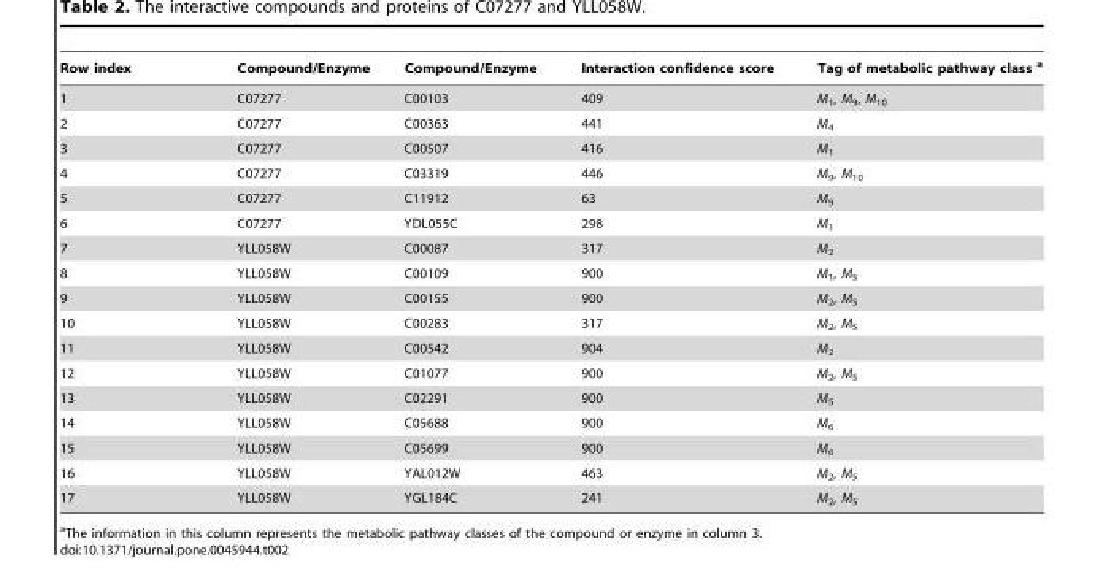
<table><thead><tr><td>Row index</td><td>Compound/Enzyme</td><td>Compound/Enzyme</td><td>Interaction confidence score</td><td>Tag of metabolic pathway class a</td></tr></thead><tbody><tr><td>1</td><td>C07277</td><td>C00103</td><td>409</td><td>M<sub>1</sub>, M<sub>9</sub>, M<sub>10</sub></td></tr><tr><td>2</td><td>C07277</td><td>C00363</td><td>441</td><td>M<sub>4</sub></td></tr><tr><td>3</td><td>C07277</td><td>C00507</td><td>416</td><td>M<sub>1</sub></td></tr><tr><td>4</td><td>C07277</td><td>C03319</td><td>446</td><td>M<sub>9</sub>, M<sub>10</sub></td></tr><tr><td>5</td><td>C07277</td><td>C11912</td><td>63</td><td>M<sub>9</sub></td></tr><tr><td>6</td><td>C07277</td><td>YDL055C</td><td>298</td><td>M<sub>1</sub></td></tr><tr><td>7</td><td>YLL058W</td><td>C00087</td><td>317</td><td>M<sub>2</sub></td></tr><tr><td>8</td><td>YLL058W</td><td>C00109</td><td>900</td><td>M<sub>1</sub>, M<sub>5</sub></td></tr><tr><td>9</td><td>YLL058W</td><td>C00155</td><td>900</td><td>M<sub>2</sub>, M<sub>5</sub></td></tr><tr><td>10</td><td>YLL058W</td><td>C00283</td><td>317</td><td>M<sub>2</sub>, M<sub>5</sub></td></tr><tr><td>11</td><td>YLL058W</td><td>C00542</td><td>904</td><td>M<sub>2</sub></td></tr><tr><td>12</td><td>YLL058W</td><td>C01077</td><td>900</td><td>M<sub>2</sub>, M<sub>5</sub></td></tr><tr><td>13</td><td>YLL058W</td><td>C02291</td><td>900</td><td>M<sub>5</sub></td></tr><tr><td>14</td><td>YLL058W</td><td>C05688</td><td>900</td><td>M<sub>6</sub></td></tr><tr><td>15</td><td>YLL058W</td><td>C05699</td><td>900</td><td>M<sub>6</sub></td></tr><tr><td>16</td><td>YLL058W</td><td>YAL012W</td><td>463</td><td>M<sub>2</sub>, M<sub>5</sub></td></tr><tr><td>17</td><td>YLL058W</td><td>YGL184C</td><td>241</td><td>M<sub>2</sub>, M<sub>5</sub></td></tr></tbody></table>